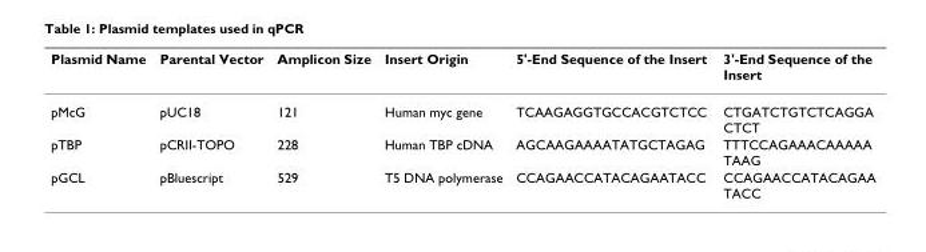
<table><thead><tr><td>Plasmid Name</td><td>Parental Vector</td><td>Amplicon Size</td><td>Insert Origin</td><td>5&#x27;-End Sequence of the Insert</td><td>3&#x27;-End Sequence of the Insert</td></tr></thead><tbody><tr><td>pMcG</td><td>pUC18</td><td>121</td><td>Human myc gene</td><td>TCAAGAGGTGCCACGTCTCC</td><td>CTGATCTGTCTCAGGA CTCT</td></tr><tr><td>pTBP</td><td>pCRII-TOPO</td><td>228</td><td>Human TBP cDNA</td><td>AGCAAGAAAATATGCTAGAG</td><td>TTTCCAGAAACAAAAA TAAG</td></tr><tr><td>pGCL</td><td>pBluescript</td><td>529</td><td>T5 DNA polymerase</td><td>CCAGAACCATACAGAATACC</td><td>CCAGAACCATACAGAA TACC</td></tr></tbody></table>